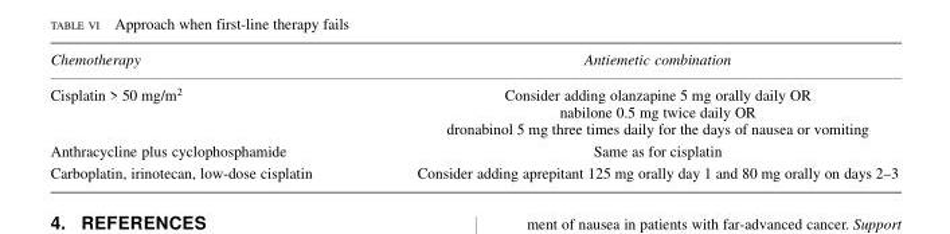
<table><thead><tr><td>Chemotherapy</td><td>Antiemetic combination</td></tr></thead><tbody><tr><td>Cisplatin &gt; 50 mg/m<sup>2</sup></td><td>Consider adding olanzapine 5 mg orally daily OR nabilone 0.5 mg twice daily OR dronabinol 5 mg three times daily for the days of nausea or vomiting</td></tr><tr><td>Anthracycline plus cyclophosphamide</td><td>Same as for cisplatin</td></tr><tr><td>Carboplatin, irinotecan, low-dose cisplatin</td><td>Consider adding aprepitant 125 mg orally day 1 and 80 mg orally on days 2–3</td></tr></tbody></table>